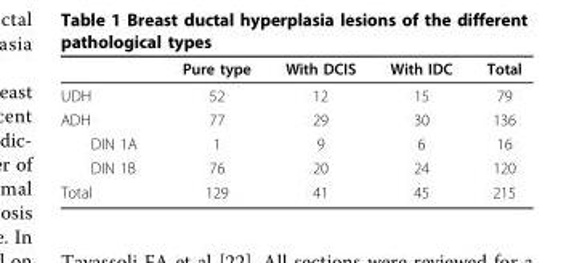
<table><thead><tr><td></td><td>Pure type</td><td>With DCIS</td><td>With IDC</td><td>Total</td></tr></thead><tbody><tr><td>UDH</td><td>52</td><td>12</td><td>15</td><td>79</td></tr><tr><td>ADH</td><td>77</td><td>29</td><td>30</td><td>136</td></tr><tr><td>DIN 1A</td><td>1</td><td>9</td><td>6</td><td>16</td></tr><tr><td>DIN 1B</td><td>76</td><td>20</td><td>24</td><td>120</td></tr><tr><td>Total</td><td>129</td><td>41</td><td>45</td><td>215</td></tr></tbody></table>